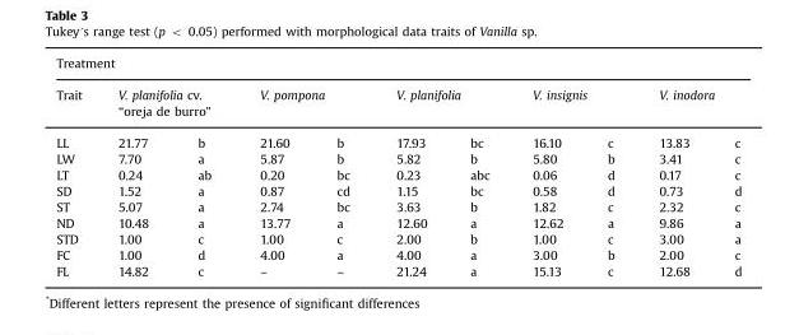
<table><thead><tr><td colspan="11">Treatment</td></tr><tr><td rowspan="2">Trait LL</td><td colspan="2">V. planifolia cv. “oreja de burro”</td><td colspan="2">V. pompona</td><td colspan="2">V. planifolia</td><td colspan="2">V. insignis</td><td colspan="2">V. inodora</td></tr><tr><td>21.77</td><td>b</td><td>21.60</td><td>b</td><td>17.93</td><td>bc</td><td>16.10</td><td>c</td><td>13.83</td><td>c</td></tr></thead><tbody><tr><td>LW</td><td>7.70</td><td>a</td><td>5.87</td><td>b</td><td>5.82</td><td>b</td><td>5.80</td><td>b</td><td>3.41</td><td>c</td></tr><tr><td>LT</td><td>0.24</td><td>ab</td><td>0.20</td><td>bc</td><td>0.23</td><td>abc</td><td>0.06</td><td>d</td><td>0.17</td><td>c</td></tr><tr><td>SD</td><td>1.52</td><td>a</td><td>0.87</td><td>cd</td><td>1.15</td><td>bc</td><td>0.58</td><td>d</td><td>0.73</td><td>d</td></tr><tr><td>ST</td><td>5.07</td><td>a</td><td>2.74</td><td>bc</td><td>3.63</td><td>b</td><td>1.82</td><td>c</td><td>2.32</td><td>c</td></tr><tr><td>ND</td><td>10.48</td><td>a</td><td>13.77</td><td>a</td><td>12.60</td><td>a</td><td>12.62</td><td>a</td><td>9.86</td><td>a</td></tr><tr><td>STD</td><td>1.00</td><td>c</td><td>1.00</td><td>c</td><td>2.00</td><td>b</td><td>1.00</td><td>c</td><td>3.00</td><td>a</td></tr><tr><td>FC</td><td>1.00</td><td>d</td><td>4.00</td><td>a</td><td>4.00</td><td>a</td><td>3.00</td><td>b</td><td>2.00</td><td>c</td></tr><tr><td>FL</td><td>14.82</td><td>c</td><td>–</td><td>–</td><td>21.24</td><td>a</td><td>15.13</td><td>c</td><td>12.68</td><td>d</td></tr></tbody></table>